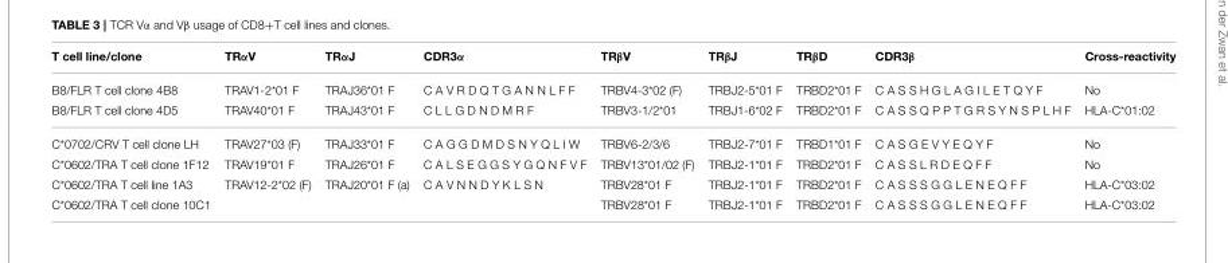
<table><thead><tr><td>T cell line/clone</td><td>TRαV</td><td>TRαJ</td><td>CDR3α</td><td>TRβV</td><td>TRβJ</td><td>TRβD</td><td>CDR3β</td><td>Cross-reactivity</td></tr></thead><tbody><tr><td>B8/FLR T cell clone 4B8</td><td>TRAV1-2*01 F</td><td>TRAJ36*01 F</td><td>C A V R D Q T G A N N L F F</td><td>TRBV4-3*02 (F)</td><td>TRBJ2-5*01 F</td><td>TRBD2*01 F</td><td>C A S S H G L A G I L E T Q Y F</td><td>No</td></tr><tr><td>B8/FLR T cell clone 4D5</td><td>TRAV40*01 F</td><td>TRAJ43*01 F</td><td>C L L G D N D M R F</td><td>TRBV3-1/2*01</td><td>TRBJ1-6*02 F</td><td>TRBD2*01 F</td><td>C A S S Q P P T G R S Y N S P L H F</td><td>HLA-C*01:02</td></tr><tr><td>C*0702/CRV T cell clone LH</td><td>TRAV27*03 (F)</td><td>TRAJ33*01 F</td><td>C A G G D M D S N Y Q L I W</td><td>TRBV6-2/3/6</td><td>TRBJ2-7*01 F</td><td>TRBD1*01 F</td><td>C A S G E V Y E Q Y F</td><td>No</td></tr><tr><td>C*0602/TRA T cell clone 1F12</td><td>TRAV19*01 F</td><td>TRAJ26*01 F</td><td>C A L S E G G S Y G Q N F V F</td><td>TRBV13*01/02 (F)</td><td>TRBJ2-1*01 F</td><td>TRBD2*01 F</td><td>C A S S L R D E Q F F</td><td>No</td></tr><tr><td>C*0602/TRA T cell line 1A3</td><td>TRAV12-2*02 (F)</td><td>TRAJ20*01 F (a)</td><td>C A V N N D Y K L S N</td><td>TRBV28*01 F</td><td>TRBJ2-1*01 F</td><td>TRBD2*01 F</td><td>C A S S S G G L E N E Q F F</td><td>HLA-C*03:02</td></tr><tr><td>C*0602/TRA T cell clone 10C1</td><td></td><td></td><td></td><td>TRBV28*01 F</td><td>TRBJ2-1*01 F</td><td>TRBD2*01 F</td><td>C A S S S G G L E N E Q F F</td><td>HLA-C*03:02</td></tr></tbody></table>